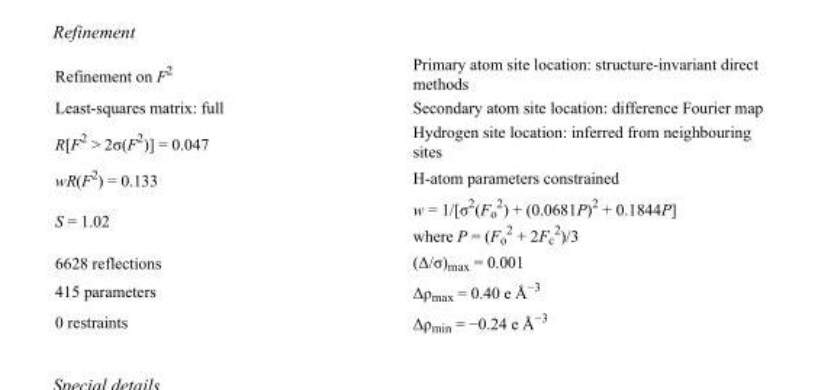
<table><tbody><tr><td>Refinement on F<sup>2</sup></td><td>Primary atom site location: structure-invariant direct methods</td></tr><tr><td>Least-squares matrix: full</td><td>Secondary atom site location: difference Fourier map</td></tr><tr><td>R[F<sup>2</sup> &gt; 2σ(F<sup>2</sup>)] = 0.047</td><td>Hydrogen site location: inferred from neighbouring sites</td></tr><tr><td>wR(F<sup>2</sup>) = 0.133</td><td>H-atom parameters constrained</td></tr><tr><td>S = 1.02</td><td>w = 1/[σ<sup>2</sup>(F<sub>o</sub> <sup>2</sup>) + (0.0681P)<sup>2</sup> + 0.1844P] where P = (F<sub>o</sub> <sup>2</sup> + 2F<sub>c</sub> <sup>2</sup>)/3</td></tr><tr><td>6628 reflections</td><td>(Δ/σ)<sub>max</sub> = 0.001</td></tr><tr><td>415 parameters</td><td>Δρ<sub>max</sub> = 0.40 e Å<sup>−3</sup></td></tr><tr><td>0 restraints</td><td>Δρ<sub>min</sub> = −0.24 e Å<sup>−3</sup></td></tr></tbody></table>